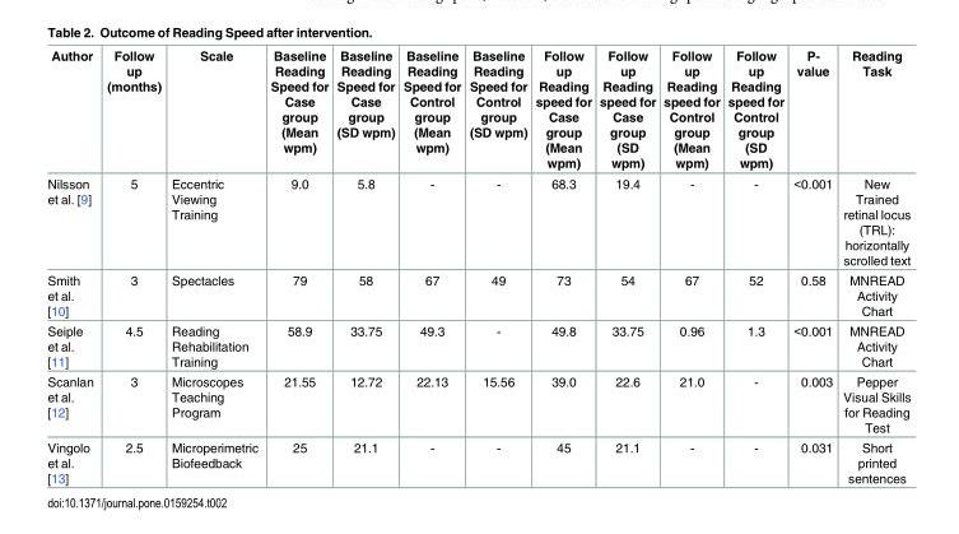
<table><thead><tr><td>Author</td><td>Follow up (months)</td><td>Scale</td><td>Baseline Reading Speed for Case group (Mean wpm)</td><td>Baseline Reading Speed for Case group (SD wpm)</td><td>Baseline Reading Speed for Control group (Mean wpm)</td><td>Baseline Reading Speed for Control group (SD wpm)</td><td>Follow up Reading speed for Case group (Mean wpm)</td><td>Follow up Reading speed for Case group (SD wpm)</td><td>Follow up Reading speed for Control group (Mean wpm)</td><td>Follow up Reading speed for Control group (SD wpm)</td><td>P- value</td><td>Reading Task</td></tr></thead><tbody><tr><td>Nilsson et al. [9]</td><td>5</td><td>Eccentric Viewing Training</td><td>9.0</td><td>5.8</td><td>-</td><td>-</td><td>68.3</td><td>19.4</td><td>-</td><td>-</td><td>&lt;0.001</td><td>New Trained retinal locus (TRL): horizontally scrolled text</td></tr><tr><td>Smith et al. [10]</td><td>3</td><td>Spectacles</td><td>79</td><td>58</td><td>67</td><td>49</td><td>73</td><td>54</td><td>67</td><td>52</td><td>0.58</td><td>MNREAD Activity Chart</td></tr><tr><td>Seiple et al. [11]</td><td>4.5</td><td>Reading Rehabilitation Training</td><td>58.9</td><td>33.75</td><td>49.3</td><td>-</td><td>49.8</td><td>33.75</td><td>0.96</td><td>1.3</td><td>&lt;0.001</td><td>MNREAD Activity Chart</td></tr><tr><td>Scanlan et al. [12]</td><td>3</td><td>Microscopes Teaching Program</td><td>21.55</td><td>12.72</td><td>22.13</td><td>15.56</td><td>39.0</td><td>22.6</td><td>21.0</td><td>-</td><td>0.003</td><td>Pepper Visual Skills for Reading Test</td></tr><tr><td>Vingolo et al. [13]</td><td>2.5</td><td>Microperimetric Biofeedback</td><td>25</td><td>21.1</td><td>-</td><td>-</td><td>45</td><td>21.1</td><td>-</td><td>-</td><td>0.031</td><td>Short printed sentences</td></tr></tbody></table>